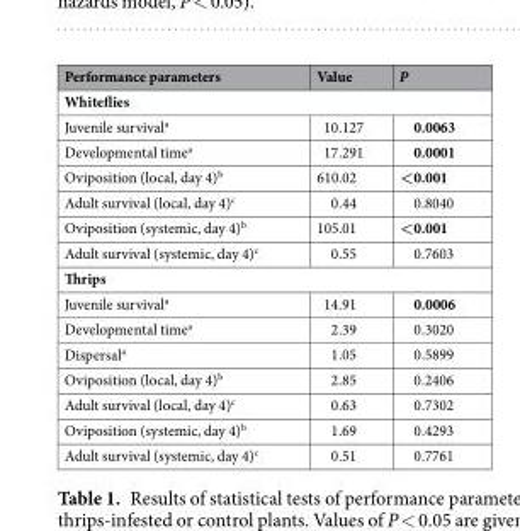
<table><thead><tr><td>Performance parameters</td><td>Value</td><td>P</td></tr></thead><tbody><tr><td colspan="3">Whiteflies</td></tr><tr><td>Juvenile survival<sup>a</sup></td><td>10.127</td><td>0.0063</td></tr><tr><td>Developmental time<sup>a</sup></td><td>17.291</td><td>0.0001</td></tr><tr><td>Oviposition (local, day 4)<sup>b</sup></td><td>610.02</td><td>&lt;0.001</td></tr><tr><td>Adult survival (local, day 4)<sup>c</sup></td><td>0.44</td><td>0.8040</td></tr><tr><td>Oviposition (systemic, day 4)<sup>b</sup></td><td>105.01</td><td>&lt;0.001</td></tr><tr><td>Adult survival (systemic, day 4)<sup>c</sup></td><td>0.55</td><td>0.7603</td></tr><tr><td colspan="3">Thrips</td></tr><tr><td>Juvenile survival<sup>a</sup></td><td>14.91</td><td>0.0006</td></tr><tr><td>Developmental time<sup>a</sup></td><td>2.39</td><td>0.3020</td></tr><tr><td>Dispersal<sup>a</sup></td><td>1.05</td><td>0.5899</td></tr><tr><td>Oviposition (local, day 4)<sup>b</sup></td><td>2.85</td><td>0.2406</td></tr><tr><td>Adult survival (local, day 4)<sup>c</sup></td><td>0.63</td><td>0.7302</td></tr><tr><td>Oviposition (systemic, day 4)<sup>b</sup></td><td>1.69</td><td>0.4293</td></tr><tr><td>Adult survival (systemic, day 4)<sup>c</sup></td><td>0.51</td><td>0.7761</td></tr></tbody></table>